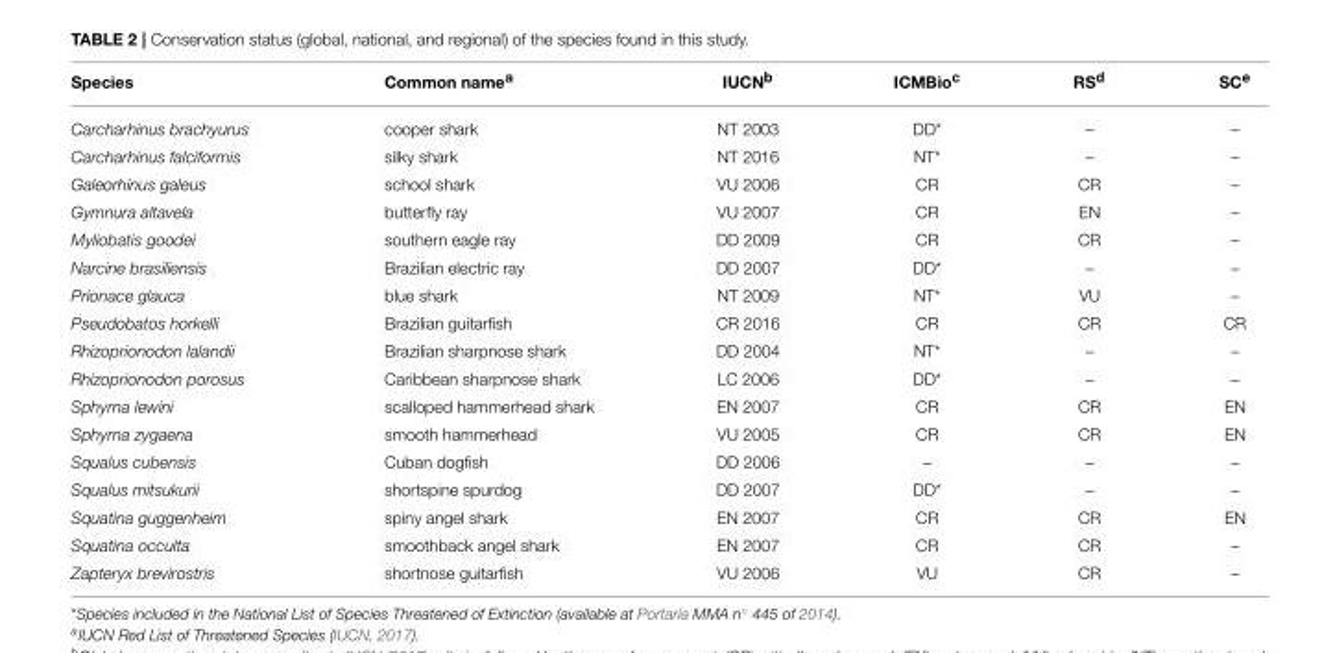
<table><thead><tr><td>Species</td><td>Common name<sup>a</sup></td><td>IUCN<sup>b</sup></td><td>ICMBio<sup>c</sup></td><td>RS<sup>d</sup></td><td>SC<sup>e</sup></td></tr></thead><tbody><tr><td>Carcharhinus brachyurus</td><td>cooper shark</td><td>NT 2003</td><td>DD*</td><td>–</td><td>–</td></tr><tr><td>Carcharhinus falciformis</td><td>silky shark</td><td>NT 2016</td><td>NT*</td><td>–</td><td>–</td></tr><tr><td>Galeorhinus galeus</td><td>school shark</td><td>VU 2006</td><td>CR</td><td>CR</td><td>–</td></tr><tr><td>Gymnura altavela</td><td>butterfly ray</td><td>VU 2007</td><td>CR</td><td>EN</td><td>–</td></tr><tr><td>Myliobatis goodei</td><td>southern eagle ray</td><td>DD 2009</td><td>CR</td><td>CR</td><td>–</td></tr><tr><td>Narcine brasiliensis</td><td>Brazilian electric ray</td><td>DD 2007</td><td>DD*</td><td>–</td><td>–</td></tr><tr><td>Prionace glauca</td><td>blue shark</td><td>NT 2009</td><td>NT*</td><td>VU</td><td>–</td></tr><tr><td>Pseudobatos horkelli</td><td>Brazilian guitarfish</td><td>CR 2016</td><td>CR</td><td>CR</td><td>CR</td></tr><tr><td>Rhizoprionodon lalandii</td><td>Brazilian sharpnose shark</td><td>DD 2004</td><td>NT*</td><td>–</td><td>–</td></tr><tr><td>Rhizoprionodon porosus</td><td>Caribbean sharpnose shark</td><td>LC 2006</td><td>DD*</td><td>–</td><td>–</td></tr><tr><td>Sphyrna lewini</td><td>scalloped hammerhead shark</td><td>EN 2007</td><td>CR</td><td>CR</td><td>EN</td></tr><tr><td>Sphyrna zygaena</td><td>smooth hammerhead</td><td>VU 2005</td><td>CR</td><td>CR</td><td>EN</td></tr><tr><td>Squalus cubensis</td><td>Cuban dogfish</td><td>DD 2006</td><td>–</td><td>–</td><td>–</td></tr><tr><td>Squalus mitsukurii</td><td>shortspine spurdog</td><td>DD 2007</td><td>DD*</td><td>–</td><td>–</td></tr><tr><td>Squatina guggenheim</td><td>spiny angel shark</td><td>EN 2007</td><td>CR</td><td>CR</td><td>EN</td></tr><tr><td>Squatina occulta</td><td>smoothback angel shark</td><td>EN 2007</td><td>CR</td><td>CR</td><td>–</td></tr><tr><td>Zapteryx brevirostris</td><td>shortnose guitarfish</td><td>VU 2006</td><td>VU</td><td>CR</td><td>–</td></tr></tbody></table>